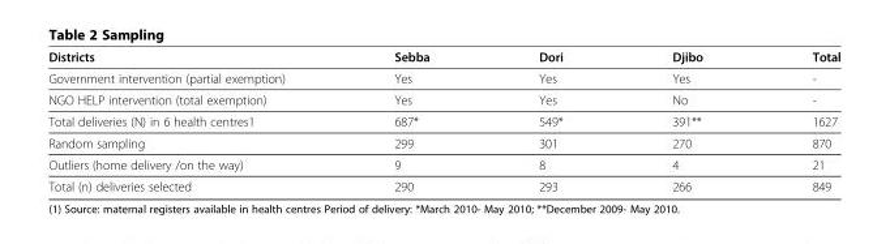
<table><thead><tr><td>Districts</td><td>Sebba</td><td>Dori</td><td>Djibo</td><td>Total</td></tr></thead><tbody><tr><td>Government intervention (partial exemption)</td><td>Yes</td><td>Yes</td><td>Yes</td><td>-</td></tr><tr><td>NGO HELP intervention (total exemption)</td><td>Yes</td><td>Yes</td><td>No</td><td>-</td></tr><tr><td>Total deliveries (N) in 6 health centres1</td><td>687*</td><td>549*</td><td>391**</td><td>1627</td></tr><tr><td>Random sampling</td><td>299</td><td>301</td><td>270</td><td>870</td></tr><tr><td>Outliers (home delivery /on the way)</td><td>9</td><td>8</td><td>4</td><td>21</td></tr><tr><td>Total (n) deliveries selected</td><td>290</td><td>293</td><td>266</td><td>849</td></tr></tbody></table>